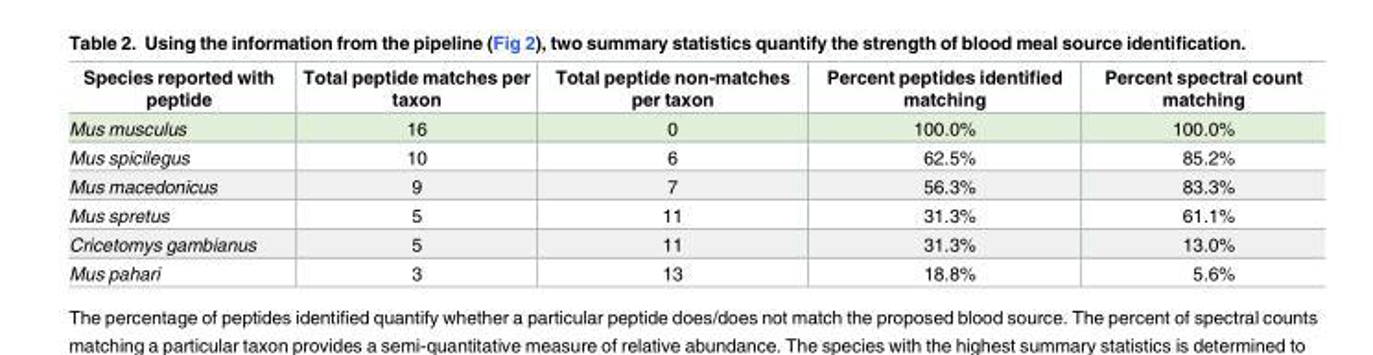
<table><thead><tr><td>Species reported with peptide</td><td>Total peptide matches per taxon</td><td>Total peptide non-matches per taxon</td><td>Percent peptides identified matching</td><td>Percent spectral count matching</td></tr></thead><tbody><tr><td>Mus musculus</td><td>16</td><td>0</td><td>100.0%</td><td>100.0%</td></tr><tr><td>Mus spicilegus</td><td>10</td><td>6</td><td>62.5%</td><td>85.2%</td></tr><tr><td>Mus macedonicus</td><td>9</td><td>7</td><td>56.3%</td><td>83.3%</td></tr><tr><td>Mus spretus</td><td>5</td><td>11</td><td>31.3%</td><td>61.1%</td></tr><tr><td>Cricetomys gambianus</td><td>5</td><td>11</td><td>31.3%</td><td>13.0%</td></tr><tr><td>Mus pahari</td><td>3</td><td>13</td><td>18.8%</td><td>5.6%</td></tr></tbody></table>